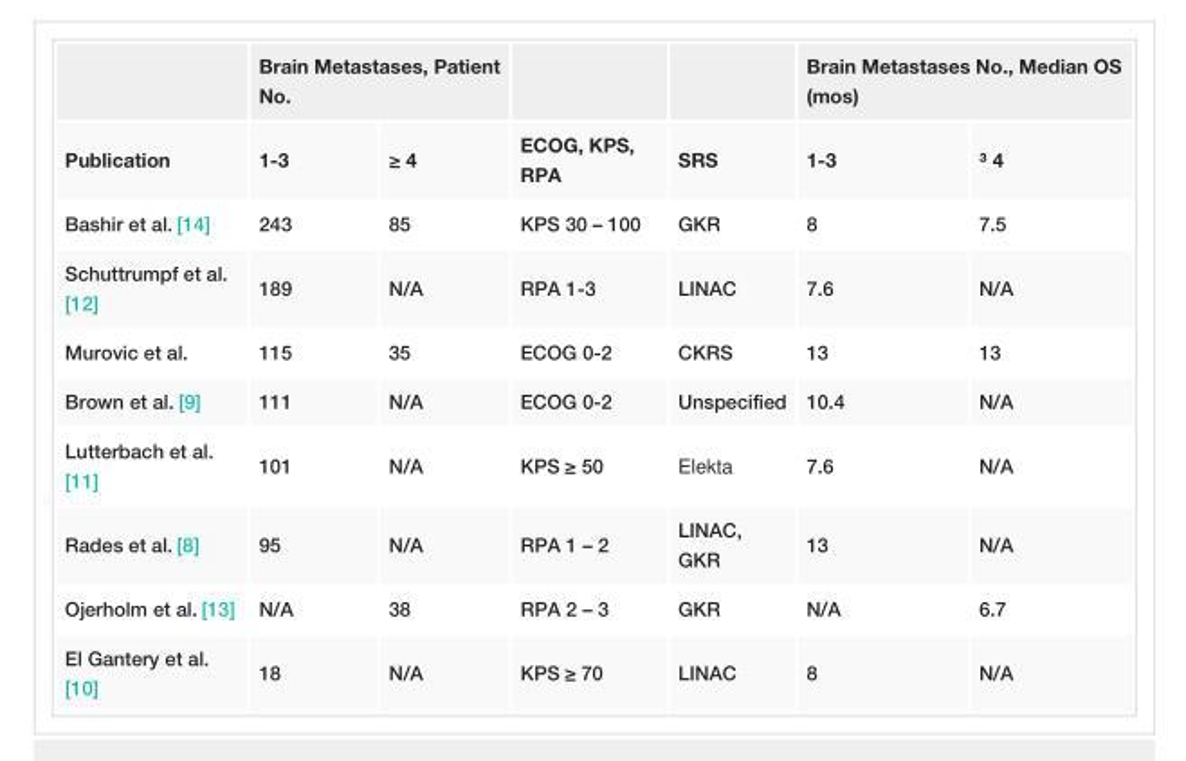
<table><thead><tr><td rowspan="2">Publication</td><td colspan="2">Brain Metastases, Patient No.</td><td rowspan="2">ECOG, KPS, RPA</td><td rowspan="2">SRS</td><td colspan="2">Brain Metastases No., Median OS (mos)</td></tr><tr><td>1-3</td><td>≥ 4</td><td>1-3</td><td>³ 4</td></tr></thead><tbody><tr><td>Bashir et al. [14]</td><td>243</td><td>85</td><td>KPS 30 – 100</td><td>GKR</td><td>8</td><td>7.5</td></tr><tr><td>Schuttrumpf et al. [12]</td><td>189</td><td>N/A</td><td>RPA 1-3</td><td>LINAC</td><td>7.6</td><td>N/A</td></tr><tr><td>Murovic et al.</td><td>115</td><td>35</td><td>ECOG 0-2</td><td>CKRS</td><td>13</td><td>13</td></tr><tr><td>Brown et al. [9]</td><td>111</td><td>N/A</td><td>ECOG 0-2</td><td>Unspecified</td><td>10.4</td><td>N/A</td></tr><tr><td>Lutterbach et al. [11]</td><td>101</td><td>N/A</td><td>KPS ≥ 50</td><td>Elekta</td><td>7.6</td><td>N/A</td></tr><tr><td>Rades et al. [8]</td><td>95</td><td>N/A</td><td>RPA 1 – 2</td><td>LINAC, GKR</td><td>13</td><td>N/A</td></tr><tr><td>Ojerholm et al. [13]</td><td>N/A</td><td>38</td><td>RPA 2 – 3</td><td>GKR</td><td>N/A</td><td>6.7</td></tr><tr><td>El Gantery et al. [10]</td><td>18</td><td>N/A</td><td>KPS ≥ 70</td><td>LINAC</td><td>8</td><td>N/A</td></tr></tbody></table>